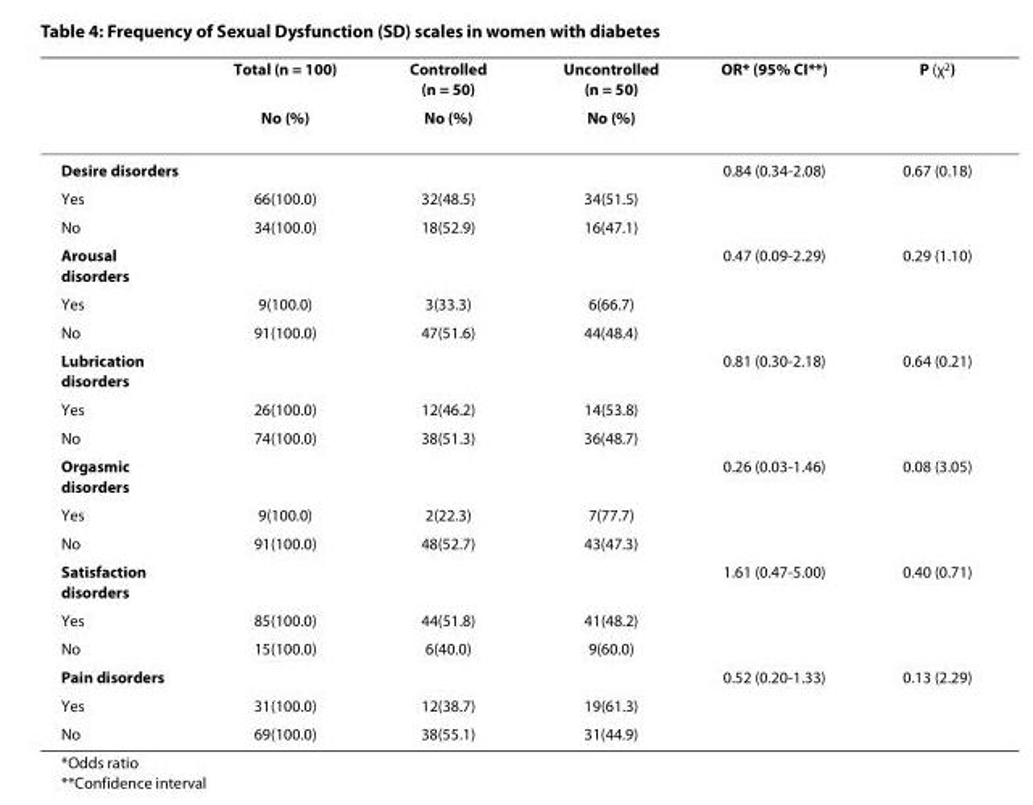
<table><thead><tr><td rowspan="2"></td><td rowspan="2">Total (n = 100) No (%)</td><td rowspan="2">Controlled (n = 50) No (%)</td><td rowspan="2">Uncontrolled (n = 50) No (%)</td><td rowspan="2">OR* (95% CI**)</td><td rowspan="2">P (χ<sup>2</sup>)</td></tr><tr></tr></thead><tbody><tr><td>Desire disorders</td><td></td><td></td><td></td><td>0.84 (0.34-2.08)</td><td>0.67 (0.18)</td></tr><tr><td>Yes</td><td>66(100.0)</td><td>32(48.5)</td><td>34(51.5)</td><td></td><td></td></tr><tr><td>No</td><td>34(100.0)</td><td>18(52.9)</td><td>16(47.1)</td><td></td><td></td></tr><tr><td>Arousal disorders</td><td></td><td></td><td></td><td>0.47 (0.09-2.29)</td><td>0.29 (1.10)</td></tr><tr><td>Yes</td><td>9(100.0)</td><td>3(33.3)</td><td>6(66.7)</td><td></td><td></td></tr><tr><td>No</td><td>91(100.0)</td><td>47(51.6)</td><td>44(48.4)</td><td></td><td></td></tr><tr><td>Lubrication disorders</td><td></td><td></td><td></td><td>0.81 (0.30-2.18)</td><td>0.64 (0.21)</td></tr><tr><td>Yes</td><td>26(100.0)</td><td>12(46.2)</td><td>14(53.8)</td><td></td><td></td></tr><tr><td>No</td><td>74(100.0)</td><td>38(51.3)</td><td>36(48.7)</td><td></td><td></td></tr><tr><td>Orgasmic disorders</td><td></td><td></td><td></td><td>0.26 (0.03-1.46)</td><td>0.08 (3.05)</td></tr><tr><td>Yes</td><td>9(100.0)</td><td>2(22.3)</td><td>7(77.7)</td><td></td><td></td></tr><tr><td>No</td><td>91(100.0)</td><td>48(52.7)</td><td>43(47.3)</td><td></td><td></td></tr><tr><td>Satisfaction disorders</td><td></td><td></td><td></td><td>1.61 (0.47-5.00)</td><td>0.40 (0.71)</td></tr><tr><td>Yes</td><td>85(100.0)</td><td>44(51.8)</td><td>41(48.2)</td><td></td><td></td></tr><tr><td>No</td><td>15(100.0)</td><td>6(40.0)</td><td>9(60.0)</td><td></td><td></td></tr><tr><td>Pain disorders</td><td></td><td></td><td></td><td>0.52 (0.20-1.33)</td><td>0.13 (2.29)</td></tr><tr><td>Yes</td><td>31(100.0)</td><td>12(38.7)</td><td>19(61.3)</td><td></td><td></td></tr><tr><td>No</td><td>69(100.0)</td><td>38(55.1)</td><td>31(44.9)</td><td></td><td></td></tr></tbody></table>